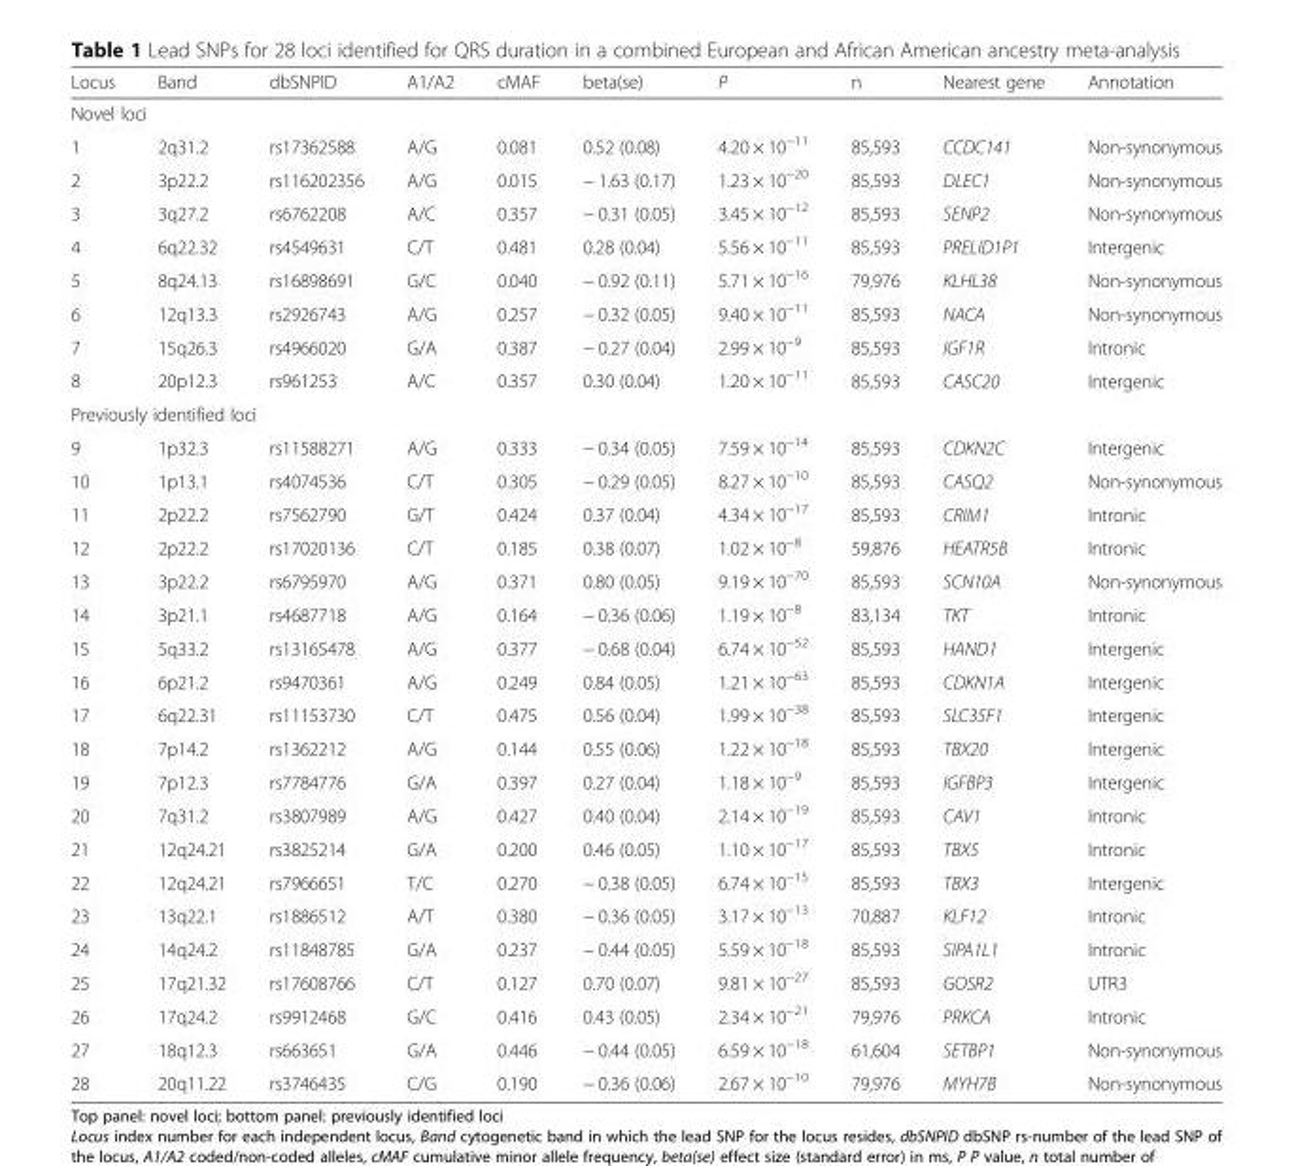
<table><thead><tr><td>Locus</td><td>Band</td><td>dbSNPID</td><td>A1/A2</td><td>cMAF</td><td>beta(se)</td><td>P</td><td>n</td><td>Nearest gene</td><td>Annotation</td></tr></thead><tbody><tr><td colspan="10">Novel loci</td></tr><tr><td>1</td><td>2q31.2</td><td>rs17362588</td><td>A/G</td><td>0.081</td><td>0.52 (0.08)</td><td>4.20 × 10<sup>−11</sup></td><td>85,593</td><td>CCDC141</td><td>Non-synonymous</td></tr><tr><td>2</td><td>3p22.2</td><td>rs116202356</td><td>A/G</td><td>0.015</td><td>− 1.63 (0.17)</td><td>1.23 × 10<sup>−20</sup></td><td>85,593</td><td>DLEC1</td><td>Non-synonymous</td></tr><tr><td>3</td><td>3q27.2</td><td>rs6762208</td><td>A/C</td><td>0.357</td><td>− 0.31 (0.05)</td><td>3.45 × 10<sup>−12</sup></td><td>85,593</td><td>SENP2</td><td>Non-synonymous</td></tr><tr><td>4</td><td>6q22.32</td><td>rs4549631</td><td>C/T</td><td>0.481</td><td>0.28 (0.04)</td><td>5.56 × 10<sup>−11</sup></td><td>85,593</td><td>PRELID1P1</td><td>Intergenic</td></tr><tr><td>5</td><td>8q24.13</td><td>rs16898691</td><td>G/C</td><td>0.040</td><td>− 0.92 (0.11)</td><td>5.71 × 10<sup>−16</sup></td><td>79,976</td><td>KLHL38</td><td>Non-synonymous</td></tr><tr><td>6</td><td>12q13.3</td><td>rs2926743</td><td>A/G</td><td>0.257</td><td>− 0.32 (0.05)</td><td>9.40 × 10<sup>−11</sup></td><td>85,593</td><td>NACA</td><td>Non-synonymous</td></tr><tr><td>7</td><td>15q26.3</td><td>rs4966020</td><td>G/A</td><td>0.387</td><td>− 0.27 (0.04)</td><td>2.99 × 10<sup>−9</sup></td><td>85,593</td><td>IGF1R</td><td>Intronic</td></tr><tr><td>8</td><td>20p12.3</td><td>rs961253</td><td>A/C</td><td>0.357</td><td>0.30 (0.04)</td><td>1.20 × 10<sup>−11</sup></td><td>85,593</td><td>CASC20</td><td>Intergenic</td></tr><tr><td colspan="10">Previously identified loci</td></tr><tr><td>9</td><td>1p32.3</td><td>rs11588271</td><td>A/G</td><td>0.333</td><td>− 0.34 (0.05)</td><td>7.59 × 10<sup>−14</sup></td><td>85,593</td><td>CDKN2C</td><td>Intergenic</td></tr><tr><td>10</td><td>1p13.1</td><td>rs4074536</td><td>C/T</td><td>0.305</td><td>− 0.29 (0.05)</td><td>8.27 × 10<sup>−10</sup></td><td>85,593</td><td>CASQ2</td><td>Non-synonymous</td></tr><tr><td>11</td><td>2p22.2</td><td>rs7562790</td><td>G/T</td><td>0.424</td><td>0.37 (0.04)</td><td>4.34 × 10<sup>−17</sup></td><td>85,593</td><td>CRIM1</td><td>Intronic</td></tr><tr><td>12</td><td>2p22.2</td><td>rs17020136</td><td>C/T</td><td>0.185</td><td>0.38 (0.07)</td><td>1.02 × 10<sup>−8</sup></td><td>59,876</td><td>HEATR5B</td><td>Intronic</td></tr><tr><td>13</td><td>3p22.2</td><td>rs6795970</td><td>A/G</td><td>0.371</td><td>0.80 (0.05)</td><td>9.19 × 10<sup>−70</sup></td><td>85,593</td><td>SCN10A</td><td>Non-synonymous</td></tr><tr><td>14</td><td>3p21.1</td><td>rs4687718</td><td>A/G</td><td>0.164</td><td>− 0.36 (0.06)</td><td>1.19 × 10<sup>−8</sup></td><td>83,134</td><td>TKT</td><td>Intronic</td></tr><tr><td>15</td><td>5q33.2</td><td>rs13165478</td><td>A/G</td><td>0.377</td><td>− 0.68 (0.04)</td><td>6.74 × 10<sup>−52</sup></td><td>85,593</td><td>HAND1</td><td>Intergenic</td></tr><tr><td>16</td><td>6p21.2</td><td>rs9470361</td><td>A/G</td><td>0.249</td><td>0.84 (0.05)</td><td>1.21 × 10<sup>−63</sup></td><td>85,593</td><td>CDKN1A</td><td>Intergenic</td></tr><tr><td>17</td><td>6q22.31</td><td>rs11153730</td><td>C/T</td><td>0.475</td><td>0.56 (0.04)</td><td>1.99 × 10<sup>−38</sup></td><td>85,593</td><td>SLC35F1</td><td>Intergenic</td></tr><tr><td>18</td><td>7p14.2</td><td>rs1362212</td><td>A/G</td><td>0.144</td><td>0.55 (0.06)</td><td>1.22 × 10<sup>−18</sup></td><td>85,593</td><td>TBX20</td><td>Intergenic</td></tr><tr><td>19</td><td>7p12.3</td><td>rs7784776</td><td>G/A</td><td>0.397</td><td>0.27 (0.04)</td><td>1.18 × 10<sup>−9</sup></td><td>85,593</td><td>IGFBP3</td><td>Intergenic</td></tr><tr><td>20</td><td>7q31.2</td><td>rs3807989</td><td>A/G</td><td>0.427</td><td>0.40 (0.04)</td><td>2.14 × 10<sup>−19</sup></td><td>85,593</td><td>CAV1</td><td>Intronic</td></tr><tr><td>21</td><td>12q24.21</td><td>rs3825214</td><td>G/A</td><td>0.200</td><td>0.46 (0.05)</td><td>1.10 × 10<sup>−17</sup></td><td>85,593</td><td>TBX5</td><td>Intronic</td></tr><tr><td>22</td><td>12q24.21</td><td>rs7966651</td><td>T/C</td><td>0.270</td><td>− 0.38 (0.05)</td><td>6.74 × 10<sup>−15</sup></td><td>85,593</td><td>TBX3</td><td>Intergenic</td></tr><tr><td>23</td><td>13q22.1</td><td>rs1886512</td><td>A/T</td><td>0.380</td><td>− 0.36 (0.05)</td><td>3.17 × 10<sup>−13</sup></td><td>70,887</td><td>KLF12</td><td>Intronic</td></tr><tr><td>24</td><td>14q24.2</td><td>rs11848785</td><td>G/A</td><td>0.237</td><td>− 0.44 (0.05)</td><td>5.59 × 10<sup>−18</sup></td><td>85,593</td><td>SIPA1L1</td><td>Intronic</td></tr><tr><td>25</td><td>17q21.32</td><td>rs17608766</td><td>C/T</td><td>0.127</td><td>0.70 (0.07)</td><td>9.81 × 10<sup>−27</sup></td><td>85,593</td><td>GOSR2</td><td>UTR3</td></tr><tr><td>26</td><td>17q24.2</td><td>rs9912468</td><td>G/C</td><td>0.416</td><td>0.43 (0.05)</td><td>2.34 × 10<sup>−21</sup></td><td>79,976</td><td>PRKCA</td><td>Intronic</td></tr><tr><td>27</td><td>18q12.3</td><td>rs663651</td><td>G/A</td><td>0.446</td><td>− 0.44 (0.05)</td><td>6.59 × 10<sup>−18</sup></td><td>61,604</td><td>SETBP1</td><td>Non-synonymous</td></tr><tr><td>28</td><td>20q11.22</td><td>rs3746435</td><td>C/G</td><td>0.190</td><td>− 0.36 (0.06)</td><td>2.67 × 10<sup>−10</sup></td><td>79,976</td><td>MYH7B</td><td>Non-synonymous</td></tr></tbody></table>